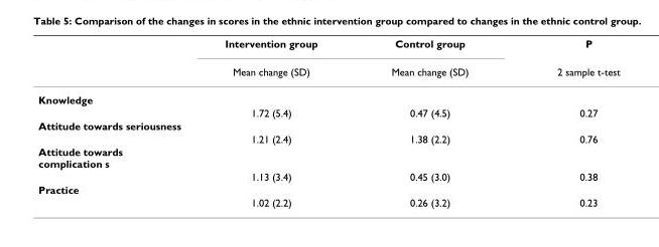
<table><thead><tr><td rowspan="2"></td><td rowspan="2">Intervention group Mean change (SD)</td><td rowspan="2">Control group Mean change (SD)</td><td rowspan="2">P 2 sample t-test</td></tr><tr></tr></thead><tbody><tr><td colspan="4">Knowledge</td></tr><tr><td></td><td>1.72 (5.4)</td><td>0.47 (4.5)</td><td>0.27</td></tr><tr><td colspan="4">Attitude towards seriousness</td></tr><tr><td></td><td>1.21 (2.4)</td><td>1.38 (2.2)</td><td>0.76</td></tr><tr><td colspan="4">Attitude towards complication s</td></tr><tr><td></td><td>1.13 (3.4)</td><td>0.45 (3.0)</td><td>0.38</td></tr><tr><td colspan="4">Practice</td></tr><tr><td></td><td>1.02 (2.2)</td><td>0.26 (3.2)</td><td>0.23</td></tr></tbody></table>